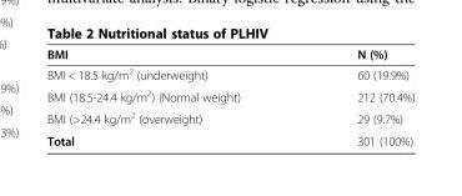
<table><thead><tr><td>BMI</td><td>N (%)</td></tr></thead><tbody><tr><td>BMI &lt; 18.5 kg/m<sup>2</sup> (underweight)</td><td>60 (19.9%)</td></tr><tr><td>BMI (18.5-24.4 kg/m<sup>2</sup>) (Normal weight)</td><td>212 (70.4%)</td></tr><tr><td>BMI (&gt;24.4 kg/m<sup>2</sup> (overweight)</td><td>29 (9.7%)</td></tr><tr><td>Total</td><td>301 (100%)</td></tr></tbody></table>